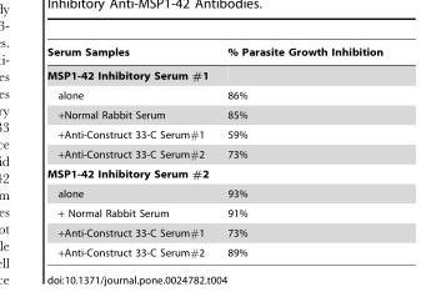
<table><thead><tr><td>Serum Samples</td><td>% Parasite Growth Inhibition</td></tr></thead><tbody><tr><td colspan="2">MSP1-42 Inhibitory Serum #1</td></tr><tr><td>alone</td><td>86%</td></tr><tr><td>+Normal Rabbit Serum</td><td>85%</td></tr><tr><td>+Anti-Construct 33-C Serum#1</td><td>59%</td></tr><tr><td>+Anti-Construct 33-C Serum#2</td><td>73%</td></tr><tr><td colspan="2">MSP1-42 Inhibitory Serum #2</td></tr><tr><td>alone</td><td>93%</td></tr><tr><td>+ Normal Rabbit Serum</td><td>91%</td></tr><tr><td>+Anti-Construct 33-C Serum#1</td><td>73%</td></tr><tr><td>+Anti-Construct 33-C Serum#2</td><td>89%</td></tr></tbody></table>